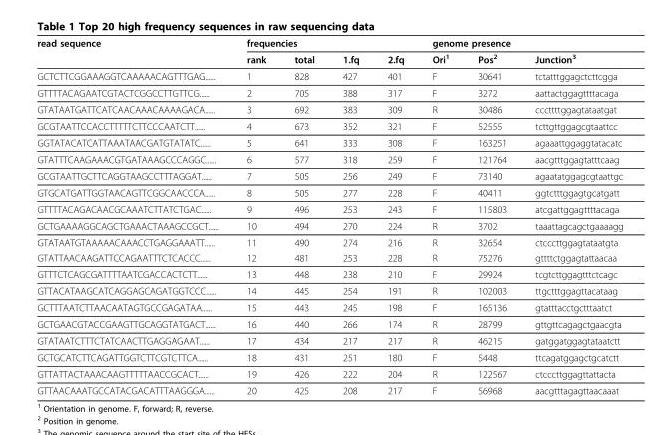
<table><thead><tr><td rowspan="2">read sequence</td><td colspan="4">frequencies</td><td colspan="3">genome presence</td></tr><tr><td>rank</td><td>total</td><td>1.fq</td><td>2.fq</td><td>Ori<sup>1</sup></td><td>Pos<sup>2</sup></td><td>Junction<sup>3</sup></td></tr></thead><tbody><tr><td>GCTCTTCGGAAAGGTCAAAAACAGTTTGAG......</td><td>1</td><td>828</td><td>427</td><td>401</td><td>F</td><td>30641</td><td>tctatttggagctcttcgga</td></tr><tr><td>GTTTTACAGAATCGTACTCGGCCTTGTTCG......</td><td>2</td><td>705</td><td>388</td><td>317</td><td>F</td><td>3272</td><td>aattactggagttttacaga</td></tr><tr><td>GTATAATGATTCATCAACAAACAAAAGACA......</td><td>3</td><td>692</td><td>383</td><td>309</td><td>R</td><td>30486</td><td>cccttttggagtataatgat</td></tr><tr><td>GCGTAATTCCACCTTTTTCTTCCCAATCTT......</td><td>4</td><td>673</td><td>352</td><td>321</td><td>F</td><td>52555</td><td>tcttgttggagcgtaattcc</td></tr><tr><td>GGTATACATCATTAAATAACGATGTATATC......</td><td>5</td><td>641</td><td>333</td><td>308</td><td>F</td><td>163251</td><td>agaaattggaggtatacatc</td></tr><tr><td>GTATTTCAAGAAACGTGATAAAGCCCAGGC......</td><td>6</td><td>577</td><td>318</td><td>259</td><td>F</td><td>121764</td><td>aacgtttggagtatttcaag</td></tr><tr><td>GCGTAATTGCTTCAGGTAAGCCTTTAGGAT......</td><td>7</td><td>505</td><td>256</td><td>249</td><td>F</td><td>73140</td><td>agaatatggagcgtaattgc</td></tr><tr><td>GTGCATGATTGGTAACAGTTCGGCAACCCA......</td><td>8</td><td>505</td><td>277</td><td>228</td><td>F</td><td>40411</td><td>ggtctttggagtgcatgatt</td></tr><tr><td>GTTTTACAGACAACGCAAATCTTATCTGAC......</td><td>9</td><td>496</td><td>253</td><td>243</td><td>F</td><td>115803</td><td>atcgattggagttttacaga</td></tr><tr><td>GCTGAAAAGGCAGCTGAAACTAAAGCCGCT......</td><td>10</td><td>494</td><td>270</td><td>224</td><td>R</td><td>3702</td><td>taaattagcagctgaaaagg</td></tr><tr><td>GTATAATGTAAAAACAAACCTGAGGAAATT......</td><td>11</td><td>490</td><td>274</td><td>216</td><td>R</td><td>32654</td><td>ctcccttggagtataatgta</td></tr><tr><td>GTATTAACAAGATTCCAGAATTTCTCACCC......</td><td>12</td><td>481</td><td>253</td><td>228</td><td>R</td><td>75276</td><td>gttttctggagtattaacaa</td></tr><tr><td>GTTTCTCAGCGATTTTAATCGACCACTCTT......</td><td>13</td><td>448</td><td>238</td><td>210</td><td>F</td><td>29924</td><td>tcgtcttggagtttctcagc</td></tr><tr><td>GTTACATAAGCATCAGGAGCAGATGGTCCC......</td><td>14</td><td>445</td><td>254</td><td>191</td><td>R</td><td>102003</td><td>ttgctttggagttacataag</td></tr><tr><td>GCTTTAATCTTAACAATAGTGCCGAGATAA......</td><td>15</td><td>443</td><td>245</td><td>198</td><td>F</td><td>165136</td><td>gtatttacctgctttaatct</td></tr><tr><td>GCTGAACGTACCGAAGTTGCAGGTATGACT......</td><td>16</td><td>440</td><td>266</td><td>174</td><td>R</td><td>28799</td><td>gttgttcagagctgaacgta</td></tr><tr><td>GTATAATCTTTCTATCAACTTGAGGAGAAT......</td><td>17</td><td>434</td><td>217</td><td>217</td><td>R</td><td>46215</td><td>gatggatggagtataatctt</td></tr><tr><td>GCTGCATCTTCAGATTGGTCTTCGTCTTCA......</td><td>18</td><td>431</td><td>251</td><td>180</td><td>F</td><td>5448</td><td>ttcagatggagctgcatctt</td></tr><tr><td>GTTATTACTAAACAAGTTTTTAACCGCACT......</td><td>19</td><td>426</td><td>222</td><td>204</td><td>R</td><td>122567</td><td>ctcccttggagttattacta</td></tr><tr><td>GTTAACAAATGCCATACGACATTTAAGGGA......</td><td>20</td><td>425</td><td>208</td><td>217</td><td>F</td><td>56968</td><td>aacgtttagagttaacaaat</td></tr></tbody></table>